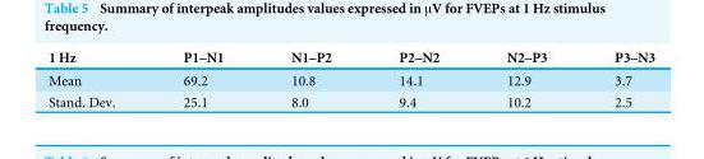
<table><thead><tr><td>1 Hz</td><td>P1–N1</td><td>N1–P2</td><td>P2–N2</td><td>N2–P3</td><td>P3–N3</td></tr></thead><tbody><tr><td>Mean</td><td>69.2</td><td>10.8</td><td>14.1</td><td>12.9</td><td>3.7</td></tr><tr><td>Stand. Dev.</td><td>25.1</td><td>8.0</td><td>9.4</td><td>10.2</td><td>2.5</td></tr></tbody></table>